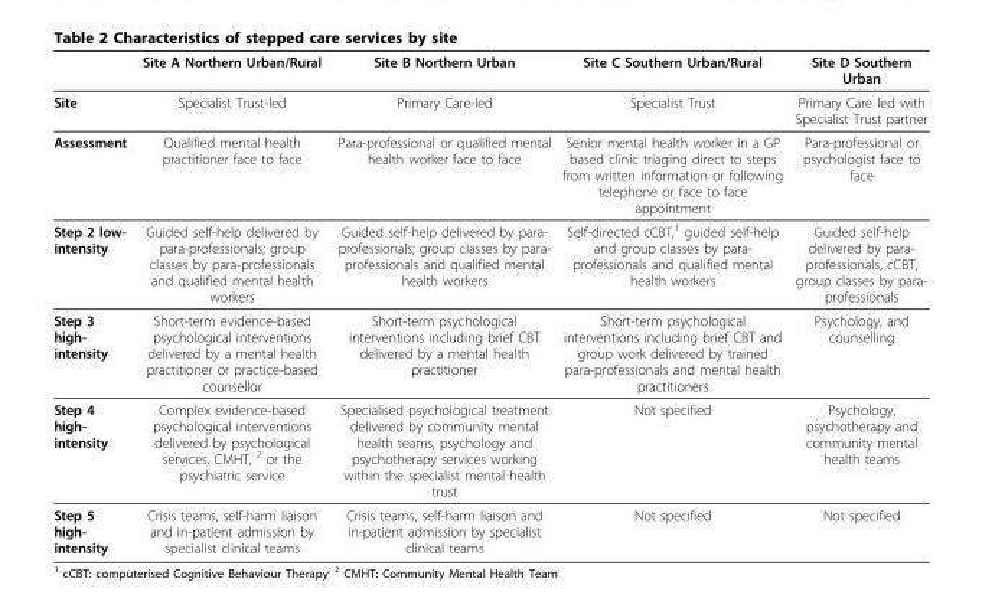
<table><thead><tr><td></td><td>Site A Northern Urban/Rural</td><td>Site B Northern Urban</td><td>Site C Southern Urban/Rural</td><td>Site D Southern Urban</td></tr></thead><tbody><tr><td>Site</td><td>Specialist Trust-led</td><td>Primary Care-led</td><td>Specialist Trust</td><td>Primary Care led with Specialist Trust partner</td></tr><tr><td>Assessment</td><td>Qualified mental health practitioner face to face</td><td>Para-professional or qualified mental health worker face to face</td><td>Senior mental health worker in a GP based clinic triaging direct to steps from written information or following telephone or face to face appointment</td><td>Para-professional or psychologist face to face</td></tr><tr><td>Step 2 low- intensity</td><td>Guided self-help delivered by para-professionals; group classes by para-professionals and qualified mental health workers</td><td>Guided self-help delivered by para- professionals; group classes by para- professionals and qualified mental health workers</td><td>Self-directed cCBT,<sup>1</sup> guided self-help and group classes by para- professionals and qualified mental health workers</td><td>Guided self-help delivered by para- professionals, cCBT, group classes by para- professionals</td></tr><tr><td>Step 3 high- intensity</td><td>Short-term evidence-based psychological interventions delivered by a mental health practitioner or practice-based counsellor</td><td>Short-term psychological interventions including brief CBT delivered by a mental health practitioner</td><td>Short-term psychological interventions including brief CBT and group work delivered by trained para-professionals and mental health practitioners</td><td>Psychology, and counselling</td></tr><tr><td>Step 4 high- intensity</td><td>Complex evidence-based psychological interventions delivered by psychological services, CMHT, <sup>2</sup> or the psychiatric service</td><td>Specialised psychological treatment delivered by community mental health teams, psychology and psychotherapy services working within the specialist mental health trust</td><td>Not specified</td><td>Psychology, psychotherapy and community mental health teams</td></tr><tr><td>Step 5 high- intensity</td><td>Crisis teams, self-harm liaison and in-patient admission by specialist clinical teams</td><td>Crisis teams, self-harm liaison and in-patient admission by specialist clinical teams</td><td>Not specified</td><td>Not specified</td></tr></tbody></table>